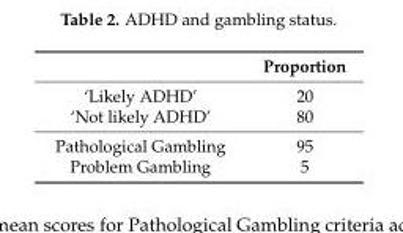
<table><thead><tr><td></td><td>Proportion</td></tr></thead><tbody><tr><td>‘Likely ADHD’</td><td>20</td></tr><tr><td>‘Not likely ADHD’</td><td>80</td></tr><tr><td>Pathological Gambling</td><td>95</td></tr><tr><td>Problem Gambling</td><td>5</td></tr></tbody></table>